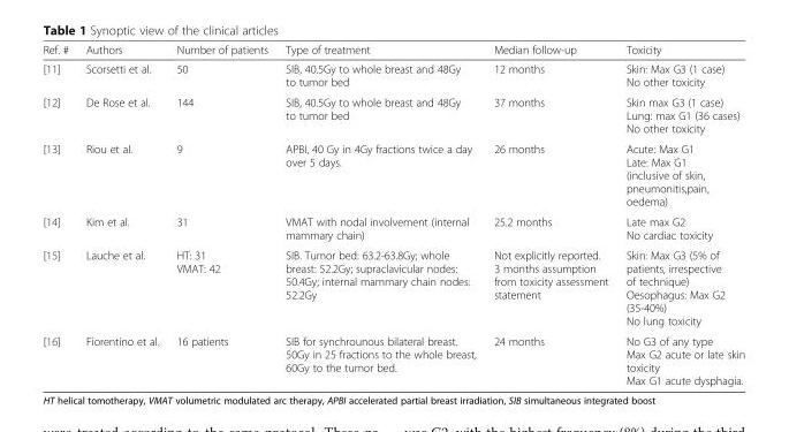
<table><thead><tr><td>Ref. #</td><td>Authors</td><td>Number of patients</td><td>Type of treatment</td><td>Median follow-up</td><td>Toxicity</td></tr></thead><tbody><tr><td>[11]</td><td>Scorsetti et al.</td><td>50</td><td>SIB, 40.5Gy to whole breast and 48Gy to tumor bed</td><td>12 months</td><td>Skin: Max G3 (1 case) No other toxicity</td></tr><tr><td>[12]</td><td>De Rose et al.</td><td>144</td><td>SIB, 40.5Gy to whole breast and 48Gy to tumor bed</td><td>37 months</td><td>Skin max G3 (1 case) Lung: max G1 (36 cases) No other toxicity</td></tr><tr><td>[13]</td><td>Riou et al.</td><td>9</td><td>APBI, 40 Gy in 4Gy fractions twice a day over 5 days.</td><td>26 months</td><td>Acute: Max G1 Late: Max G1 (inclusive of skin, pneumonitis,pain, oedema)</td></tr><tr><td>[14]</td><td>Kim et al.</td><td>31</td><td>VMAT with nodal involvement (internal mammary chain)</td><td>25.2 months</td><td>Late max G2 No cardiac toxicity</td></tr><tr><td>[15]</td><td>Lauche et al.</td><td>HT: 31 VMAT: 42</td><td>SIB. Tumor bed: 63.2-63.8Gy; whole breast: 52.2Gy; supraclavicular nodes: 50.4Gy; internal mammary chain nodes: 52.2Gy</td><td>Not explicitly reported. 3 months assumption from toxicity assessment statement</td><td>Skin: Max G3 (5% of patients, irrespective of technique) Oesophagus: Max G2 (35-40%) No lung toxicity</td></tr><tr><td>[16]</td><td>Fiorentino et al.</td><td>16 patients</td><td>SIB for synchrounous bilateral breast. 50Gy in 25 fractions to the whole breast, 60Gy to the tumor bed.</td><td>24 months</td><td>No G3 of any type Max G2 acute or late skin toxicity Max G1 acute dysphagia.</td></tr></tbody></table>